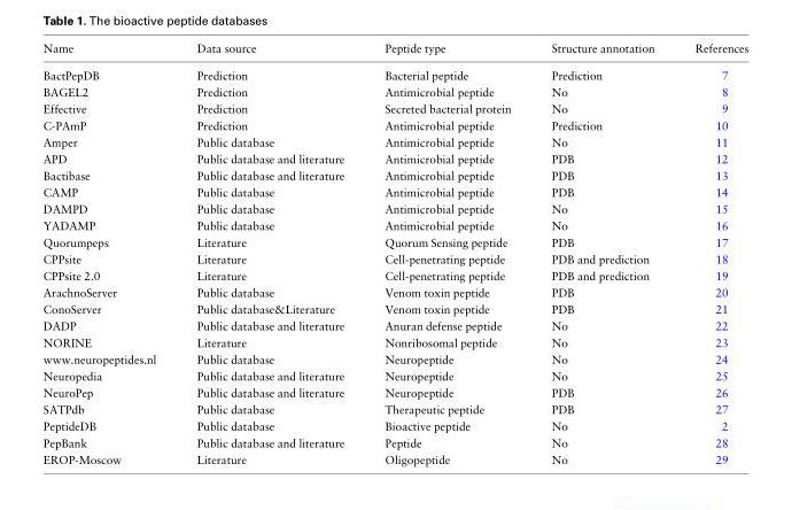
<table><thead><tr><td>Name</td><td>Data source</td><td>Peptide type</td><td>Structure annotation</td><td>References</td></tr></thead><tbody><tr><td>BactPepDB</td><td>Prediction</td><td>Bacterial peptide</td><td>Prediction</td><td>7</td></tr><tr><td>BAGEL2</td><td>Prediction</td><td>Antimicrobial peptide</td><td>No</td><td>8</td></tr><tr><td>Effective</td><td>Prediction</td><td>Secreted bacterial protein</td><td>No</td><td>9</td></tr><tr><td>C-PAmP</td><td>Prediction</td><td>Antimicrobial peptide</td><td>Prediction</td><td>10</td></tr><tr><td>Amper</td><td>Public database</td><td>Antimicrobial peptide</td><td>No</td><td>11</td></tr><tr><td>APD</td><td>Public database and literature</td><td>Antimicrobial peptide</td><td>PDB</td><td>12</td></tr><tr><td>Bactibase</td><td>Public database and literature</td><td>Antimicrobial peptide</td><td>PDB</td><td>13</td></tr><tr><td>CAMP</td><td>Public database</td><td>Antimicrobial peptide</td><td>PDB</td><td>14</td></tr><tr><td>DAMPD</td><td>Public database</td><td>Antimicrobial peptide</td><td>No</td><td>15</td></tr><tr><td>YADAMP</td><td>Public database</td><td>Antimicrobial peptide</td><td>No</td><td>16</td></tr><tr><td>Quorumpeps</td><td>Literature</td><td>Quorum Sensing peptide</td><td>PDB</td><td>17</td></tr><tr><td>CPPsite</td><td>Literature</td><td>Cell-penetrating peptide</td><td>PDB and prediction</td><td>18</td></tr><tr><td>CPPsite 2.0</td><td>Literature</td><td>Cell-penetrating peptide</td><td>PDB and prediction</td><td>19</td></tr><tr><td>ArachnoServer</td><td>Public database</td><td>Venom toxin peptide</td><td>PDB</td><td>20</td></tr><tr><td>ConoServer</td><td>Public database&amp;Literature</td><td>Venom toxin peptide</td><td>PDB</td><td>21</td></tr><tr><td>DADP</td><td>Public database and literature</td><td>Anuran defense peptide</td><td>No</td><td>22</td></tr><tr><td>NORINE</td><td>Literature</td><td>Nonribosomal peptide</td><td>No</td><td>23</td></tr><tr><td>www.neuropeptides.nl</td><td>Public database</td><td>Neuropeptide</td><td>No</td><td>24</td></tr><tr><td>Neuropedia</td><td>Public database and literature</td><td>Neuropeptide</td><td>No</td><td>25</td></tr><tr><td>NeuroPep</td><td>Public database and literature</td><td>Neuropeptide</td><td>PDB</td><td>26</td></tr><tr><td>SATPdb</td><td>Public database</td><td>Therapeutic peptide</td><td>PDB</td><td>27</td></tr><tr><td>PeptideDB</td><td>Public database</td><td>Bioactive peptide</td><td>No</td><td>2</td></tr><tr><td>PepBank</td><td>Public database and literature</td><td>Peptide</td><td>No</td><td>28</td></tr><tr><td>EROP-Moscow</td><td>Literature</td><td>Oligopeptide</td><td>No</td><td>29</td></tr></tbody></table>